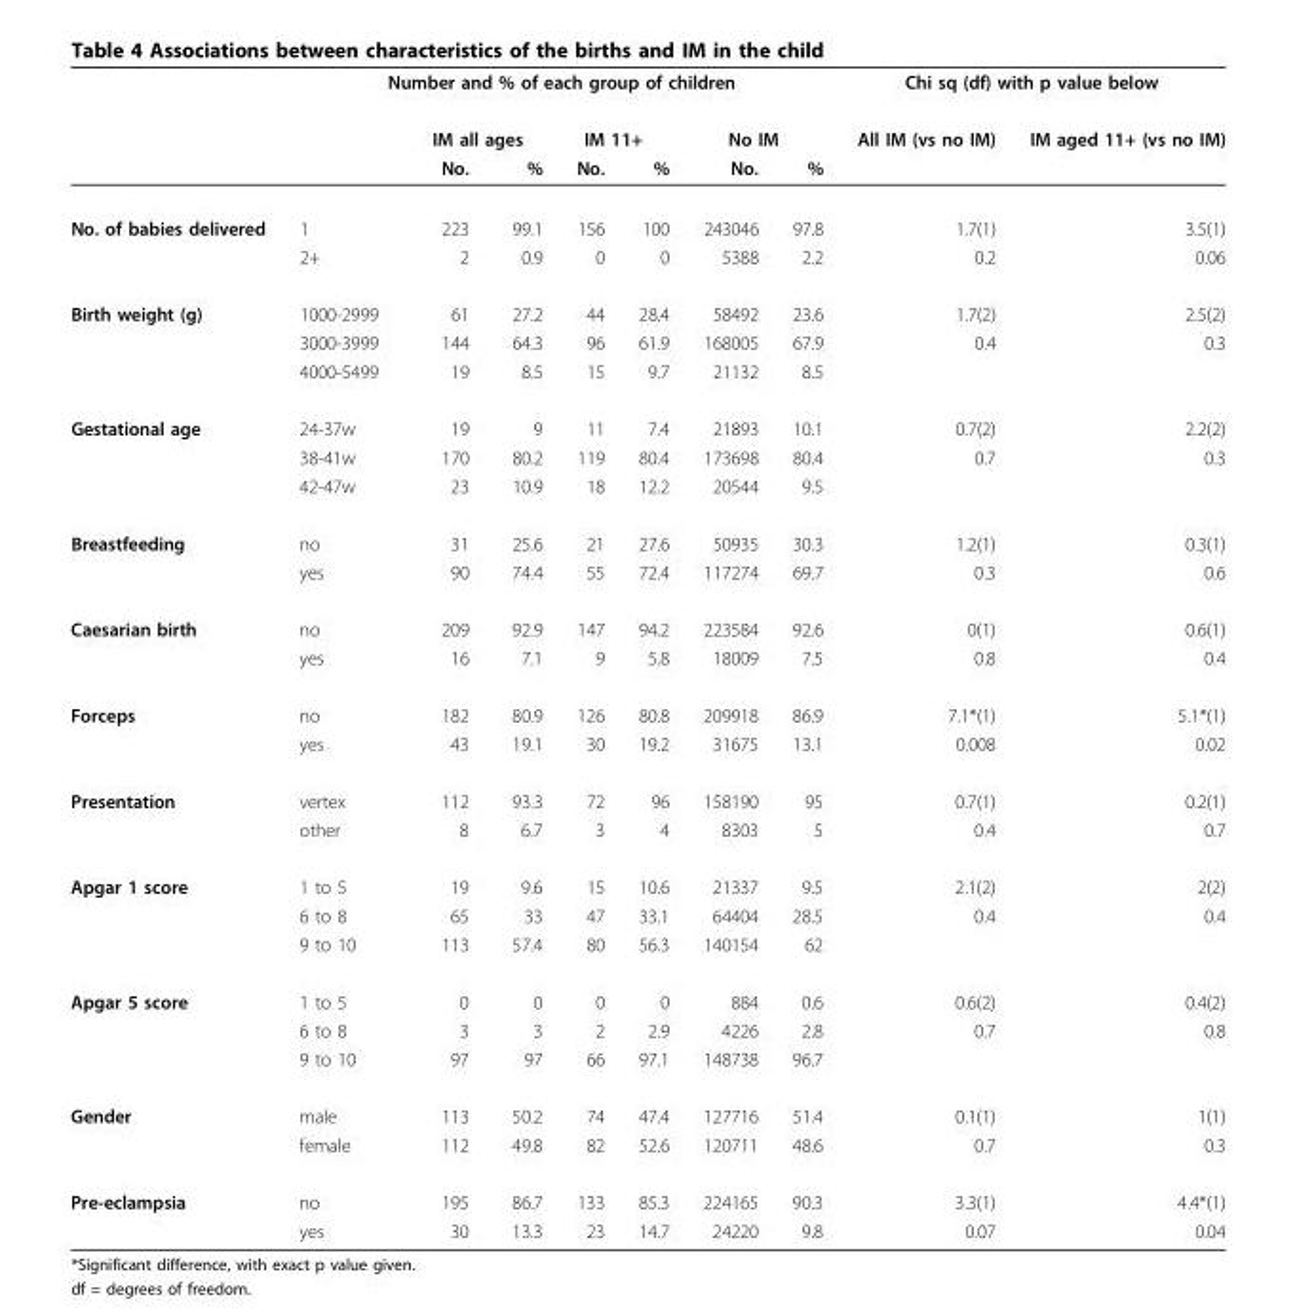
<table><thead><tr><td rowspan="3"></td><td colspan="7">Number and % of each group of children</td><td colspan="2">Chi sq (df) with p value below</td></tr><tr><td rowspan="2"></td><td colspan="2">IM all ages</td><td colspan="2">IM 11+</td><td colspan="2">No IM</td><td rowspan="2">All IM (vs no IM)</td><td rowspan="2">IM aged 11+ (vs no IM)</td></tr><tr><td>No.</td><td>%</td><td>No.</td><td>%</td><td>No.</td><td>%</td></tr></thead><tbody><tr><td rowspan="2">No. of babies delivered</td><td>1</td><td>223</td><td>99.1</td><td>156</td><td>100</td><td>243046</td><td>97.8</td><td>1.7(1)</td><td>3.5(1)</td></tr><tr><td>2+</td><td>2</td><td>0.9</td><td>0</td><td>0</td><td>5388</td><td>2.2</td><td>0.2</td><td>0.06</td></tr><tr><td rowspan="3">Birth weight (g)</td><td>1000-2999</td><td>61</td><td>27.2</td><td>44</td><td>28.4</td><td>58492</td><td>23.6</td><td>1.7(2)</td><td>2.5(2)</td></tr><tr><td>3000-3999</td><td>144</td><td>64.3</td><td>96</td><td>61.9</td><td>168005</td><td>67.9</td><td>0.4</td><td>0.3</td></tr><tr><td>4000-5499</td><td>19</td><td>8.5</td><td>15</td><td>9.7</td><td>21132</td><td>8.5</td><td></td><td></td></tr><tr><td rowspan="3">Gestational age</td><td>24-37w</td><td>19</td><td>9</td><td>11</td><td>7.4</td><td>21893</td><td>10.1</td><td>0.7(2)</td><td>2.2(2)</td></tr><tr><td>38-41w</td><td>170</td><td>80.2</td><td>119</td><td>80.4</td><td>173698</td><td>80.4</td><td>0.7</td><td>0.3</td></tr><tr><td>42-47w</td><td>23</td><td>10.9</td><td>18</td><td>12.2</td><td>20544</td><td>9.5</td><td></td><td></td></tr><tr><td rowspan="2">Breastfeeding</td><td>no</td><td>31</td><td>25.6</td><td>21</td><td>27.6</td><td>50935</td><td>30.3</td><td>1.2(1)</td><td>0.3(1)</td></tr><tr><td>yes</td><td>90</td><td>74.4</td><td>55</td><td>72.4</td><td>117274</td><td>69.7</td><td>0.3</td><td>0.6</td></tr><tr><td rowspan="2">Caesarian birth</td><td>no</td><td>209</td><td>92.9</td><td>147</td><td>94.2</td><td>223584</td><td>92.6</td><td>0(1)</td><td>0.6(1)</td></tr><tr><td>yes</td><td>16</td><td>7.1</td><td>9</td><td>5.8</td><td>18009</td><td>7.5</td><td>0.8</td><td>0.4</td></tr><tr><td rowspan="2">Forceps</td><td>no</td><td>182</td><td>80.9</td><td>126</td><td>80.8</td><td>209918</td><td>86.9</td><td>7.1*(1)</td><td>5.1*(1)</td></tr><tr><td>yes</td><td>43</td><td>19.1</td><td>30</td><td>19.2</td><td>31675</td><td>13.1</td><td>0.008</td><td>0.02</td></tr><tr><td rowspan="2">Presentation</td><td>vertex</td><td>112</td><td>93.3</td><td>72</td><td>96</td><td>158190</td><td>95</td><td>0.7(1)</td><td>0.2(1)</td></tr><tr><td>other</td><td>8</td><td>6.7</td><td>3</td><td>4</td><td>8303</td><td>5</td><td>0.4</td><td>0.7</td></tr><tr><td rowspan="3">Apgar 1 score</td><td>1 to 5</td><td>19</td><td>9.6</td><td>15</td><td>10.6</td><td>21337</td><td>9.5</td><td>2.1(2)</td><td>2(2)</td></tr><tr><td>6 to 8</td><td>65</td><td>33</td><td>47</td><td>33.1</td><td>64404</td><td>28.5</td><td>0.4</td><td>0.4</td></tr><tr><td>9 to 10</td><td>113</td><td>57.4</td><td>80</td><td>56.3</td><td>140154</td><td>62</td><td></td><td></td></tr><tr><td rowspan="3">Apgar 5 score</td><td>1 to 5</td><td>0</td><td>0</td><td>0</td><td>0</td><td>884</td><td>0.6</td><td>0.6(2)</td><td>0.4(2)</td></tr><tr><td>6 to 8</td><td>3</td><td>3</td><td>2</td><td>2.9</td><td>4226</td><td>2.8</td><td>0.7</td><td>0.8</td></tr><tr><td>9 to 10</td><td>97</td><td>97</td><td>66</td><td>97.1</td><td>148738</td><td>96.7</td><td></td><td></td></tr><tr><td rowspan="2">Gender</td><td>male</td><td>113</td><td>50.2</td><td>74</td><td>47.4</td><td>127716</td><td>51.4</td><td>0.1(1)</td><td>1(1)</td></tr><tr><td>female</td><td>112</td><td>49.8</td><td>82</td><td>52.6</td><td>120711</td><td>48.6</td><td>0.7</td><td>0.3</td></tr><tr><td rowspan="2">Pre-eclampsia</td><td>no</td><td>195</td><td>86.7</td><td>133</td><td>85.3</td><td>224165</td><td>90.3</td><td>3.3(1)</td><td>4.4*(1)</td></tr><tr><td>yes</td><td>30</td><td>13.3</td><td>23</td><td>14.7</td><td>24220</td><td>9.8</td><td>0.07</td><td>0.04</td></tr></tbody></table>